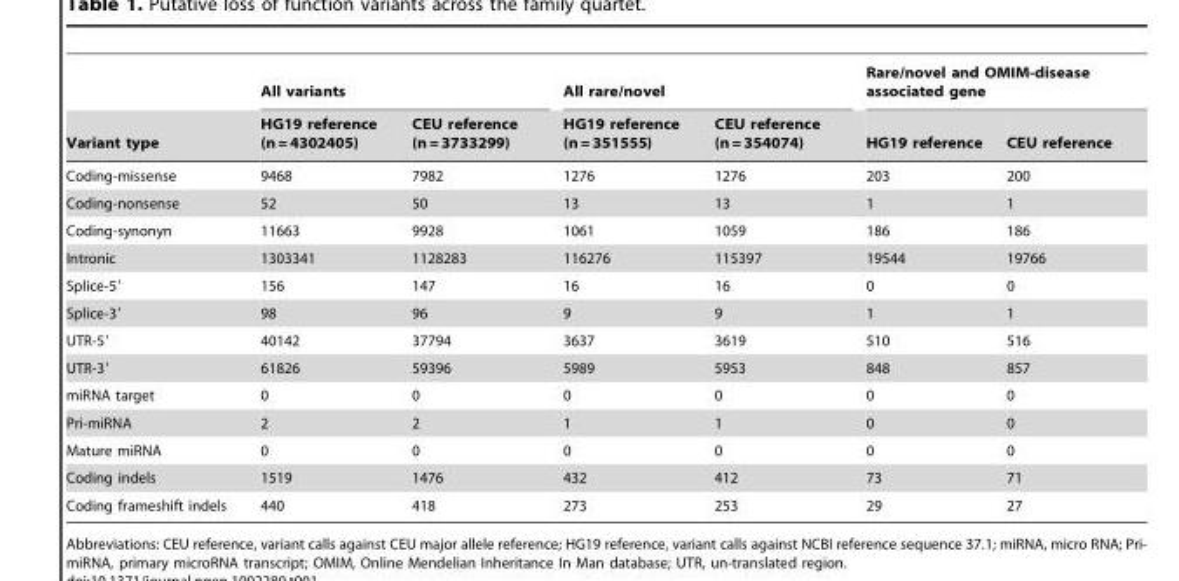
<table><thead><tr><td rowspan="2">Variant type</td><td colspan="2">All variants</td><td colspan="2">All rare/novel</td><td colspan="2">Rare/novel and OMIM-disease associated gene</td></tr><tr><td>HG19 reference (n = 4302405)</td><td>CEU reference (n = 3733299)</td><td>HG19 reference (n = 351555)</td><td>CEU reference (n = 354074)</td><td>HG19 reference</td><td>CEU reference</td></tr></thead><tbody><tr><td>Coding-missense</td><td>9468</td><td>7982</td><td>1276</td><td>1276</td><td>203</td><td>200</td></tr><tr><td>Coding-nonsense</td><td>52</td><td>50</td><td>13</td><td>13</td><td>1</td><td>1</td></tr><tr><td>Coding-synonyn</td><td>11663</td><td>9928</td><td>1061</td><td>1059</td><td>186</td><td>186</td></tr><tr><td>Intronic</td><td>1303341</td><td>1128283</td><td>116276</td><td>115397</td><td>19544</td><td>19766</td></tr><tr><td>Splice-5′</td><td>156</td><td>147</td><td>16</td><td>16</td><td>0</td><td>0</td></tr><tr><td>Splice-3′</td><td>98</td><td>96</td><td>9</td><td>9</td><td>1</td><td>1</td></tr><tr><td>UTR-5′</td><td>40142</td><td>37794</td><td>3637</td><td>3619</td><td>510</td><td>516</td></tr><tr><td>UTR-3′</td><td>61826</td><td>59396</td><td>5989</td><td>5953</td><td>848</td><td>857</td></tr><tr><td>miRNA target</td><td>0</td><td>0</td><td>0</td><td>0</td><td>0</td><td>0</td></tr><tr><td>Pri-miRNA</td><td>2</td><td>2</td><td>1</td><td>1</td><td>0</td><td>0</td></tr><tr><td>Mature miRNA</td><td>0</td><td>0</td><td>0</td><td>0</td><td>0</td><td>0</td></tr><tr><td>Coding indels</td><td>1519</td><td>1476</td><td>432</td><td>412</td><td>73</td><td>71</td></tr><tr><td>Coding frameshift indels</td><td>440</td><td>418</td><td>273</td><td>253</td><td>29</td><td>27</td></tr></tbody></table>